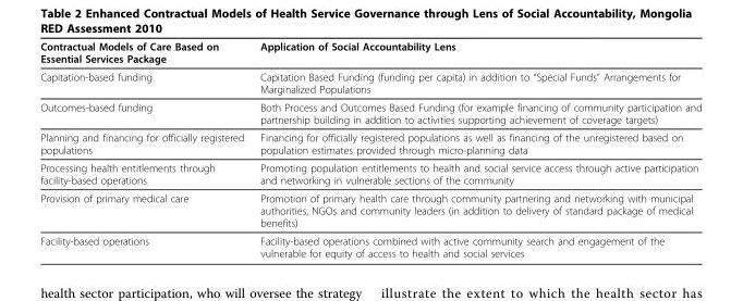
<table><thead><tr><td>Contractual Models of Care Based on Essential Services Package</td><td>Application of Social Accountability Lens</td></tr></thead><tbody><tr><td>Capitation-based funding</td><td>Capitation Based Funding (funding per capita) in addition to “Special Funds” Arrangements for Marginalized Populations</td></tr><tr><td>Outcomes-based funding</td><td>Both Process and Outcomes Based Funding (for example financing of community participation and partnership building in addition to activities supporting achievement of coverage targets)</td></tr><tr><td>Planning and financing for officially registered populations</td><td>Financing for officially registered populations as well as financing of the unregistered based on population estimates provided through micro-planning data</td></tr><tr><td>Processing health entitlements through facility-based operations</td><td>Promoting population entitlements to health and social service access through active participation and networking in vulnerable sections of the community</td></tr><tr><td>Provision of primary medical care</td><td>Promotion of primary health care through community partnering and networking with municipal authorities, NGOs and community leaders (in addition to delivery of standard package of medical benefits)</td></tr><tr><td>Facility-based operations</td><td>Facility-based operations combined with active community search and engagement of the vulnerable for equity of access to health and social services</td></tr></tbody></table>